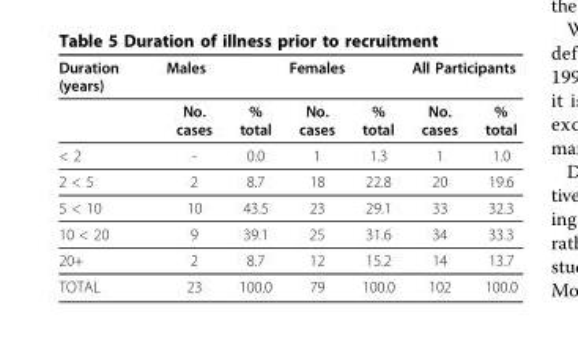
<table><thead><tr><td rowspan="2">Duration (years)</td><td colspan="2">Males</td><td colspan="2">Females</td><td colspan="2">All Participants</td></tr><tr><td>No. cases</td><td>% total</td><td>No. cases</td><td>% total</td><td>No. cases</td><td>% total</td></tr></thead><tbody><tr><td>&lt; 2</td><td>-</td><td>0.0</td><td>1</td><td>1.3</td><td>1</td><td>1.0</td></tr><tr><td>2 &lt; 5</td><td>2</td><td>8.7</td><td>18</td><td>22.8</td><td>20</td><td>19.6</td></tr><tr><td>5 &lt; 10</td><td>10</td><td>43.5</td><td>23</td><td>29.1</td><td>33</td><td>32.3</td></tr><tr><td>10 &lt; 20</td><td>9</td><td>39.1</td><td>25</td><td>31.6</td><td>34</td><td>33.3</td></tr><tr><td>20+</td><td>2</td><td>8.7</td><td>12</td><td>15.2</td><td>14</td><td>13.7</td></tr><tr><td>TOTAL</td><td>23</td><td>100.0</td><td>79</td><td>100.0</td><td>102</td><td>100.0</td></tr></tbody></table>